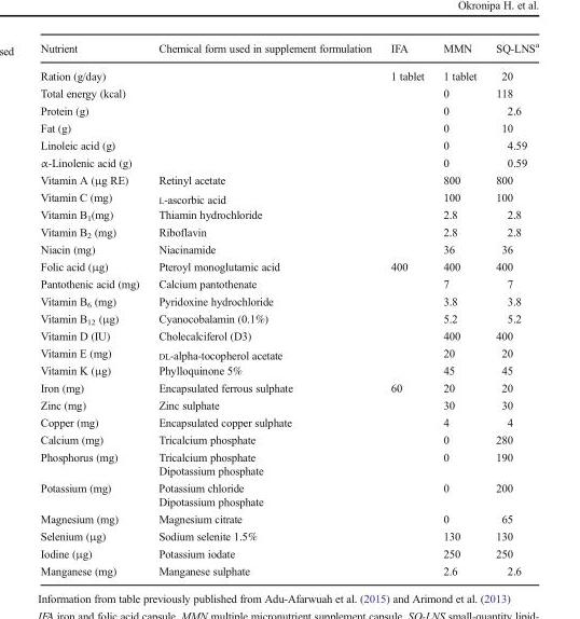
<table><thead><tr><td>Nutrient</td><td>Chemical form used in supplement formulation</td><td>IFA</td><td>MMN</td><td>SQ-LNS<sup>a</sup></td></tr></thead><tbody><tr><td>Ration (g/day)</td><td></td><td>1 tablet</td><td>1 tablet</td><td>20</td></tr><tr><td>Total energy (kcal)</td><td></td><td></td><td>0</td><td>118</td></tr><tr><td>Protein (g)</td><td></td><td></td><td>0</td><td>2.6</td></tr><tr><td>Fat (g)</td><td></td><td></td><td>0</td><td>10</td></tr><tr><td>Linoleic acid (g)</td><td></td><td></td><td>0</td><td>4.59</td></tr><tr><td>α-Linolenic acid (g)</td><td></td><td></td><td>0</td><td>0.59</td></tr><tr><td>Vitamin A (μg RE)</td><td>Retinyl acetate</td><td></td><td>800</td><td>800</td></tr><tr><td>Vitamin C (mg)</td><td>L-ascorbic acid</td><td></td><td>100</td><td>100</td></tr><tr><td>Vitamin B<sub>1</sub>(mg)</td><td>Thiamin hydrochloride</td><td></td><td>2.8</td><td>2.8</td></tr><tr><td>Vitamin B<sub>2</sub> (mg)</td><td>Riboflavin</td><td></td><td>2.8</td><td>2.8</td></tr><tr><td>Niacin (mg)</td><td>Niacinamide</td><td></td><td>36</td><td>36</td></tr><tr><td>Folic acid (μg)</td><td>Pteroyl monoglutamic acid</td><td>400</td><td>400</td><td>400</td></tr><tr><td>Pantothenic acid (mg)</td><td>Calcium pantothenate</td><td></td><td>7</td><td>7</td></tr><tr><td>Vitamin B<sub>6</sub> (mg)</td><td>Pyridoxine hydrochloride</td><td></td><td>3.8</td><td>3.8</td></tr><tr><td>Vitamin B<sub>12</sub> (μg)</td><td>Cyanocobalamin (0.1%)</td><td></td><td>5.2</td><td>5.2</td></tr><tr><td>Vitamin D (IU)</td><td>Cholecalciferol (D3)</td><td></td><td>400</td><td>400</td></tr><tr><td>Vitamin E (mg)</td><td>DL-alpha-tocopherol acetate</td><td></td><td>20</td><td>20</td></tr><tr><td>Vitamin K (μg)</td><td>Phylloquinone 5%</td><td></td><td>45</td><td>45</td></tr><tr><td>Iron (mg)</td><td>Encapsulated ferrous sulphate</td><td>60</td><td>20</td><td>20</td></tr><tr><td>Zinc (mg)</td><td>Zinc sulphate</td><td></td><td>30</td><td>30</td></tr><tr><td>Copper (mg)</td><td>Encapsulated copper sulphate</td><td></td><td>4</td><td>4</td></tr><tr><td>Calcium (mg)</td><td>Tricalcium phosphate</td><td></td><td>0</td><td>280</td></tr><tr><td rowspan="2">Phosphorus (mg)</td><td>Tricalcium phosphate</td><td rowspan="2"></td><td rowspan="2">0</td><td rowspan="2">190</td></tr><tr><td>Dipotassium phosphate</td></tr><tr><td rowspan="2">Potassium (mg)</td><td>Potassium chloride</td><td rowspan="2"></td><td rowspan="2">0</td><td rowspan="2">200</td></tr><tr><td>Dipotassium phosphate</td></tr><tr><td>Magnesium (mg)</td><td>Magnesium citrate</td><td></td><td>0</td><td>65</td></tr><tr><td>Selenium (μg)</td><td>Sodium selenite 1.5%</td><td></td><td>130</td><td>130</td></tr><tr><td>Iodine (μg)</td><td>Potassium iodate</td><td></td><td>250</td><td>250</td></tr><tr><td>Manganese (mg)</td><td>Manganese sulphate</td><td></td><td>2.6</td><td>2.6</td></tr></tbody></table>